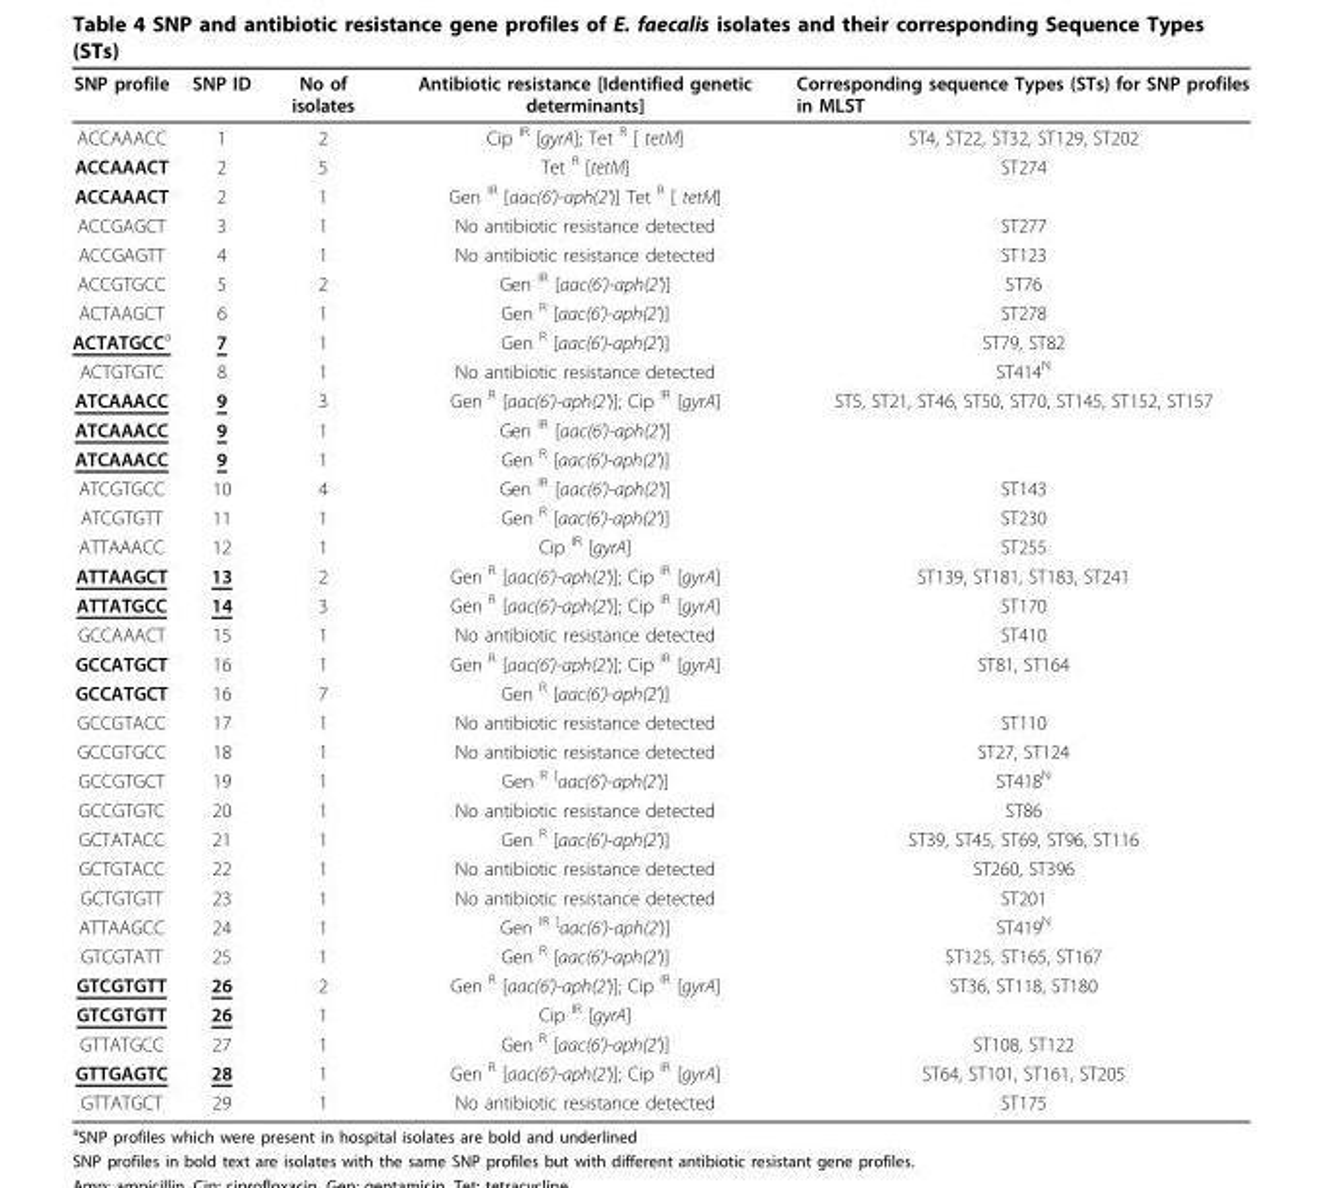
<table><thead><tr><td>SNP profile</td><td>SNP ID</td><td>No of isolates</td><td>Antibiotic resistance [Identified genetic determinants]</td><td>Corresponding sequence Types (STs) for SNP profiles in MLST</td></tr></thead><tbody><tr><td>ACCAAACC</td><td>1</td><td>2</td><td>Cip <sup>IR</sup> [gyrA]; Tet <sup>R</sup> [ tetM]</td><td>ST4, ST22, ST32, ST129, ST202</td></tr><tr><td>ACCAAACT</td><td>2</td><td>5</td><td>Tet <sup>R</sup> [tetM]</td><td>ST274</td></tr><tr><td>ACCAAACT</td><td>2</td><td>1</td><td>Gen <sup>IR</sup> [aac(6’)-aph(2’)] Tet <sup>R</sup> [ tetM]</td><td></td></tr><tr><td>ACCGAGCT</td><td>3</td><td>1</td><td>No antibiotic resistance detected</td><td>ST277</td></tr><tr><td>ACCGAGTT</td><td>4</td><td>1</td><td>No antibiotic resistance detected</td><td>ST123</td></tr><tr><td>ACCGTGCC</td><td>5</td><td>2</td><td>Gen <sup>IR</sup> [aac(6’)-aph(2’)]</td><td>ST76</td></tr><tr><td>ACTAAGCT</td><td>6</td><td>1</td><td>Gen <sup>R</sup> [aac(6’)-aph(2’)]</td><td>ST278</td></tr><tr><td>ACTATGCC<sup>a</sup></td><td>7</td><td>1</td><td>Gen <sup>R</sup> [aac(6’)-aph(2’)]</td><td>ST79, ST82</td></tr><tr><td>ACTGTGTC</td><td>8</td><td>1</td><td>No antibiotic resistance detected</td><td>ST414<sup>N</sup></td></tr><tr><td>ATCAAACC</td><td>9</td><td>3</td><td>Gen <sup>R</sup> [aac(6’)-aph(2’)]; Cip <sup>IR</sup> [gyrA]</td><td>ST5, ST21, ST46, ST50, ST70, ST145, ST152, ST157</td></tr><tr><td>ATCAAACC</td><td>9</td><td>1</td><td>Gen <sup>IR</sup> [aac(6’)-aph(2’)]</td><td></td></tr><tr><td>ATCAAACC</td><td>9</td><td>1</td><td>Gen <sup>R</sup> [aac(6’)-aph(2’)]</td><td></td></tr><tr><td>ATCGTGCC</td><td>10</td><td>4</td><td>Gen <sup>IR</sup> [aac(6’)-aph(2’)]</td><td>ST143</td></tr><tr><td>ATCGTGTT</td><td>11</td><td>1</td><td>Gen <sup>R</sup> [aac(6’)-aph(2’)]</td><td>ST230</td></tr><tr><td>ATTAAACC</td><td>12</td><td>1</td><td>Cip <sup>IR</sup> [gyrA]</td><td>ST255</td></tr><tr><td>ATTAAGCT</td><td>13</td><td>2</td><td>Gen <sup>R</sup> [aac(6’)-aph(2’)]; Cip <sup>IR</sup> [gyrA]</td><td>ST139, ST181, ST183, ST241</td></tr><tr><td>ATTATGCC</td><td>14</td><td>3</td><td>Gen <sup>R</sup> [aac(6’)-aph(2’)]; Cip <sup>IR</sup> [gyrA]</td><td>ST170</td></tr><tr><td>GCCAAACT</td><td>15</td><td>1</td><td>No antibiotic resistance detected</td><td>ST410</td></tr><tr><td>GCCATGCT</td><td>16</td><td>1</td><td>Gen <sup>R</sup> [aac(6’)-aph(2’)]; Cip <sup>IR</sup> [gyrA]</td><td>ST81, ST164</td></tr><tr><td>GCCATGCT</td><td>16</td><td>7</td><td>Gen <sup>R</sup> [aac(6’)-aph(2’)]</td><td></td></tr><tr><td>GCCGTACC</td><td>17</td><td>1</td><td>No antibiotic resistance detected</td><td>ST110</td></tr><tr><td>GCCGTGCC</td><td>18</td><td>1</td><td>No antibiotic resistance detected</td><td>ST27, ST124</td></tr><tr><td>GCCGTGCT</td><td>19</td><td>1</td><td>Gen <sup>R [</sup>aac(6’)-aph(2’)]</td><td>ST418<sup>N</sup></td></tr><tr><td>GCCGTGTC</td><td>20</td><td>1</td><td>No antibiotic resistance detected</td><td>ST86</td></tr><tr><td>GCTATACC</td><td>21</td><td>1</td><td>Gen <sup>R</sup> [aac(6’)-aph(2’)]</td><td>ST39, ST45, ST69, ST96, ST116</td></tr><tr><td>GCTGTACC</td><td>22</td><td>1</td><td>No antibiotic resistance detected</td><td>ST260, ST396</td></tr><tr><td>GCTGTGTT</td><td>23</td><td>1</td><td>No antibiotic resistance detected</td><td>ST201</td></tr><tr><td>ATTAAGCC</td><td>24</td><td>1</td><td>Gen <sup>IR [</sup>aac(6’)-aph(2’)]</td><td>ST419<sup>N</sup></td></tr><tr><td>GTCGTATT</td><td>25</td><td>1</td><td>Gen <sup>R</sup> [aac(6’)-aph(2’)]</td><td>ST125, ST165, ST167</td></tr><tr><td>GTCGTGTT</td><td>26</td><td>2</td><td>Gen <sup>R</sup> [aac(6’)-aph(2’)]; Cip <sup>IR</sup> [gyrA]</td><td>ST36, ST118, ST180</td></tr><tr><td>GTCGTGTT</td><td>26</td><td>1</td><td>Cip <sup>IR</sup> [gyrA]</td><td></td></tr><tr><td>GTTATGCC</td><td>27</td><td>1</td><td>Gen <sup>R</sup> [aac(6’)-aph(2’)]</td><td>ST108, ST122</td></tr><tr><td>GTTGAGTC</td><td>28</td><td>1</td><td>Gen <sup>R</sup> [aac(6’)-aph(2’)]; Cip <sup>IR</sup> [gyrA]</td><td>ST64, ST101, ST161, ST205</td></tr><tr><td>GTTATGCT</td><td>29</td><td>1</td><td>No antibiotic resistance detected</td><td>ST175</td></tr></tbody></table>